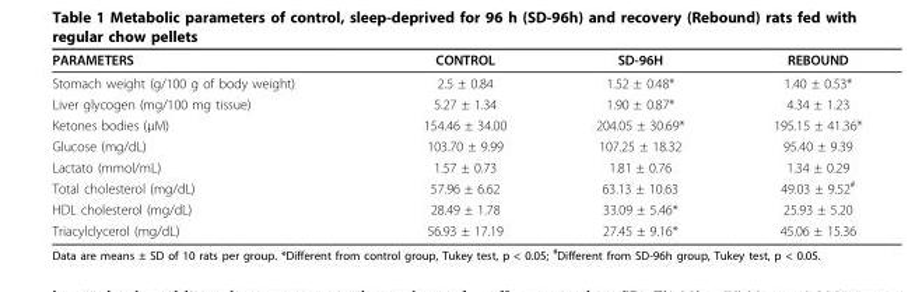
<table><thead><tr><td>PARAMETERS</td><td>CONTROL</td><td>SD-96H</td><td>REBOUND</td></tr></thead><tbody><tr><td>Stomach weight (g/100 g of body weight)</td><td>2.5 ± 0.84</td><td>1.52 ± 0.48*</td><td>1.40 ± 0.53*</td></tr><tr><td>Liver glycogen (mg/100 mg tissue)</td><td>5.27 ± 1.34</td><td>1.90 ± 0.87*</td><td>4.34 ± 1.23</td></tr><tr><td>Ketones bodies (μM)</td><td>154.46 ± 34.00</td><td>204.05 ± 30.69*</td><td>195.15 ± 41.36*</td></tr><tr><td>Glucose (mg/dL)</td><td>103.70 ± 9.99</td><td>107.25 ± 18.32</td><td>95.40 ± 9.39</td></tr><tr><td>Lactato (mmol/mL)</td><td>1.57 ± 0.73</td><td>1.81 ± 0.76</td><td>1.34 ± 0.29</td></tr><tr><td>Total cholesterol (mg/dL)</td><td>57.96 ± 6.62</td><td>63.13 ± 10.63</td><td>49.03 ± 9.52<sup>#</sup></td></tr><tr><td>HDL cholesterol (mg/dL)</td><td>28.49 ± 1.78</td><td>33.09 ± 5.46*</td><td>25.93 ± 5.20</td></tr><tr><td>Triacylclycerol (mg/dL)</td><td>56.93 ± 17.19</td><td>27.45 ± 9.16*</td><td>45.06 ± 15.36</td></tr></tbody></table>